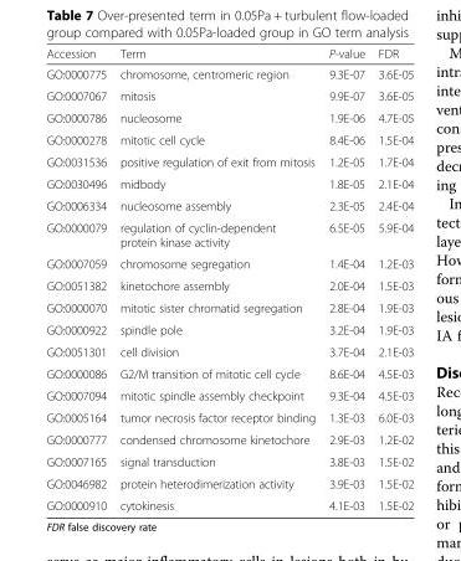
<table><thead><tr><td>Accession</td><td>Term</td><td>P-value</td><td>FDR</td></tr></thead><tbody><tr><td>GO:0000775</td><td>chromosome, centromeric region</td><td>9.3E-07</td><td>3.6E-05</td></tr><tr><td>GO:0007067</td><td>mitosis</td><td>9.9E-07</td><td>3.6E-05</td></tr><tr><td>GO:0000786</td><td>nucleosome</td><td>1.9E-06</td><td>4.7E-05</td></tr><tr><td>GO:0000278</td><td>mitotic cell cycle</td><td>8.4E-06</td><td>1.5E-04</td></tr><tr><td>GO:0031536</td><td>positive regulation of exit from mitosis</td><td>1.2E-05</td><td>1.7E-04</td></tr><tr><td>GO:0030496</td><td>midbody</td><td>1.8E-05</td><td>2.1E-04</td></tr><tr><td>GO:0006334</td><td>nucleosome assembly</td><td>2.3E-05</td><td>2.4E-04</td></tr><tr><td>GO:0000079</td><td>regulation of cyclin-dependent protein kinase activity</td><td>6.5E-05</td><td>5.9E-04</td></tr><tr><td>GO:0007059</td><td>chromosome segregation</td><td>1.4E-04</td><td>1.2E-03</td></tr><tr><td>GO:0051382</td><td>kinetochore assembly</td><td>2.0E-04</td><td>1.5E-03</td></tr><tr><td>GO:0000070</td><td>mitotic sister chromatid segregation</td><td>2.8E-04</td><td>1.9E-03</td></tr><tr><td>GO:0000922</td><td>spindle pole</td><td>3.2E-04</td><td>1.9E-03</td></tr><tr><td>GO:0051301</td><td>cell division</td><td>3.7E-04</td><td>2.1E-03</td></tr><tr><td>GO:0000086</td><td>G2/M transition of mitotic cell cycle</td><td>8.6E-04</td><td>4.5E-03</td></tr><tr><td>GO:0007094</td><td>mitotic spindle assembly checkpoint</td><td>9.3E-04</td><td>4.5E-03</td></tr><tr><td>GO:0005164</td><td>tumor necrosis factor receptor binding</td><td>1.3E-03</td><td>6.0E-03</td></tr><tr><td>GO:0000777</td><td>condensed chromosome kinetochore</td><td>2.9E-03</td><td>1.2E-02</td></tr><tr><td>GO:0007165</td><td>signal transduction</td><td>3.8E-03</td><td>1.5E-02</td></tr><tr><td>GO:0046982</td><td>protein heterodimerization activity</td><td>3.9E-03</td><td>1.5E-02</td></tr><tr><td>GO:0000910</td><td>cytokinesis</td><td>4.1E-03</td><td>1.5E-02</td></tr></tbody></table>